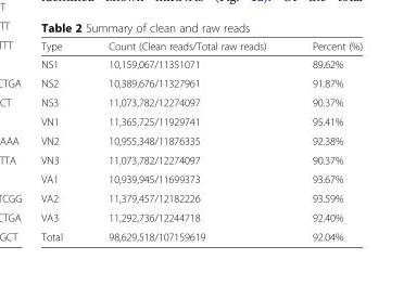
<table><thead><tr><td>Type</td><td>Count (Clean reads/Total raw reads)</td><td>Percent (%)</td></tr></thead><tbody><tr><td>NS1</td><td>10,159,067/11351071</td><td>89.62%</td></tr><tr><td>NS2</td><td>10,389,676/11327961</td><td>91.87%</td></tr><tr><td>NS3</td><td>11,073,782/12274097</td><td>90.37%</td></tr><tr><td>VN1</td><td>11,365,725/11929741</td><td>95.41%</td></tr><tr><td>VN2</td><td>10,955,348/11876335</td><td>92.38%</td></tr><tr><td>VN3</td><td>11,073,782/12274097</td><td>90.37%</td></tr><tr><td>VA1</td><td>10,939,945/11699373</td><td>93.67%</td></tr><tr><td>VA2</td><td>11,379,457/12182226</td><td>93.59%</td></tr><tr><td>VA3</td><td>11,292,736/12244718</td><td>92.40%</td></tr><tr><td>Total</td><td>98,629,518/107159619</td><td>92.04%</td></tr></tbody></table>